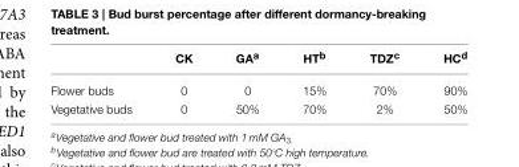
<table><thead><tr><td></td><td>CK</td><td>GA<sup>a</sup></td><td>HT<sup>b</sup></td><td>TDZ<sup>c</sup></td><td>HC<sup>d</sup></td></tr></thead><tbody><tr><td>Flower buds</td><td>0</td><td>0</td><td>15%</td><td>70%</td><td>90%</td></tr><tr><td>Vegetative buds</td><td>0</td><td>50%</td><td>70%</td><td>2%</td><td>50%</td></tr></tbody></table>